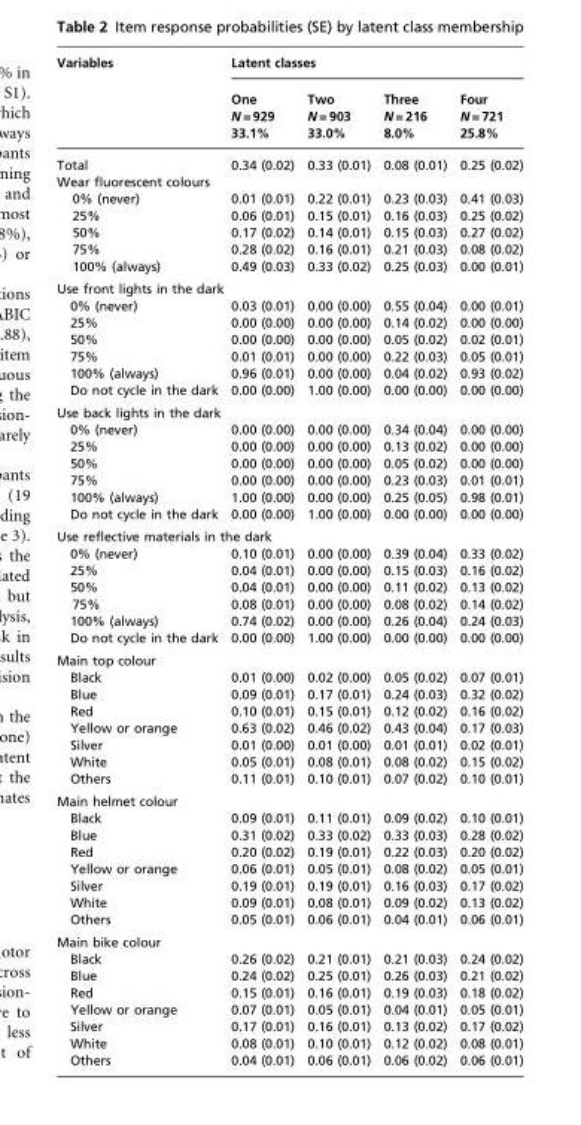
<table><thead><tr><td rowspan="4">Variables</td><td colspan="4">Latent classes</td></tr><tr><td rowspan="3">One N = 929 33.1%</td><td rowspan="3">Two N = 903 33.0%</td><td rowspan="3">Three N = 216 8.0%</td><td rowspan="3">Four N = 721 25.8%</td></tr><tr></tr><tr></tr></thead><tbody><tr><td>Total</td><td>0.34 (0.02)</td><td>0.33 (0.01)</td><td>0.08 (0.01)</td><td>0.25 (0.02)</td></tr><tr><td colspan="5">Wear fluorescent colours</td></tr><tr><td>0% (never)</td><td>0.01 (0.01)</td><td>0.22 (0.01)</td><td>0.23 (0.03)</td><td>0.41 (0.03)</td></tr><tr><td>25%</td><td>0.06 (0.01)</td><td>0.15 (0.01)</td><td>0.16 (0.03)</td><td>0.25 (0.02)</td></tr><tr><td>50%</td><td>0.17 (0.02)</td><td>0.14 (0.01)</td><td>0.15 (0.03)</td><td>0.27 (0.02)</td></tr><tr><td>75%</td><td>0.28 (0.02)</td><td>0.16 (0.01)</td><td>0.21 (0.03)</td><td>0.08 (0.02)</td></tr><tr><td>100% (always)</td><td>0.49 (0.03)</td><td>0.33 (0.02)</td><td>0.25 (0.03)</td><td>0.00 (0.01)</td></tr><tr><td colspan="5">Use front lights in the dark</td></tr><tr><td>0% (never)</td><td>0.03 (0.01)</td><td>0.00 (0.00)</td><td>0.55 (0.04)</td><td>0.00 (0.01)</td></tr><tr><td>25%</td><td>0.00 (0.00)</td><td>0.00 (0.00)</td><td>0.14 (0.02)</td><td>0.00 (0.00)</td></tr><tr><td>50%</td><td>0.00 (0.00)</td><td>0.00 (0.00)</td><td>0.05 (0.02)</td><td>0.02 (0.01)</td></tr><tr><td>75%</td><td>0.01 (0.01)</td><td>0.00 (0.00)</td><td>0.22 (0.03)</td><td>0.05 (0.01)</td></tr><tr><td>100% (always)</td><td>0.96 (0.01)</td><td>0.00 (0.00)</td><td>0.04 (0.02)</td><td>0.93 (0.02)</td></tr><tr><td>Do not cycle in the dark</td><td>0.00 (0.00)</td><td>1.00 (0.00)</td><td>0.00 (0.00)</td><td>0.00 (0.00)</td></tr><tr><td colspan="5">Use back lights in the dark</td></tr><tr><td>0% (never)</td><td>0.00 (0.00)</td><td>0.00 (0.00)</td><td>0.34 (0.04)</td><td>0.00 (0.00)</td></tr><tr><td>25%</td><td>0.00 (0.00)</td><td>0.00 (0.00)</td><td>0.13 (0.02)</td><td>0.00 (0.00)</td></tr><tr><td>50%</td><td>0.00 (0.00)</td><td>0.00 (0.00)</td><td>0.05 (0.02)</td><td>0.00 (0.00)</td></tr><tr><td>75%</td><td>0.00 (0.00)</td><td>0.00 (0.00)</td><td>0.23 (0.03)</td><td>0.01 (0.01)</td></tr><tr><td>100% (always)</td><td>1.00 (0.00)</td><td>0.00 (0.00)</td><td>0.25 (0.05)</td><td>0.98 (0.01)</td></tr><tr><td>Do not cycle in the dark</td><td>0.00 (0.00)</td><td>1.00 (0.00)</td><td>0.00 (0.00)</td><td>0.00 (0.00)</td></tr><tr><td colspan="5">Use reflective materials in the dark</td></tr><tr><td>0% (never)</td><td>0.10 (0.01)</td><td>0.00 (0.00)</td><td>0.39 (0.04)</td><td>0.33 (0.02)</td></tr><tr><td>25%</td><td>0.04 (0.01)</td><td>0.00 (0.00)</td><td>0.15 (0.03)</td><td>0.16 (0.02)</td></tr><tr><td>50%</td><td>0.04 (0.01)</td><td>0.00 (0.00)</td><td>0.11 (0.02)</td><td>0.13 (0.02)</td></tr><tr><td>75%</td><td>0.08 (0.01)</td><td>0.00 (0.00)</td><td>0.08 (0.02)</td><td>0.14 (0.02)</td></tr><tr><td>100% (always)</td><td>0.74 (0.02)</td><td>0.00 (0.00)</td><td>0.26 (0.04)</td><td>0.24 (0.03)</td></tr><tr><td>Do not cycle in the dark</td><td>0.00 (0.00)</td><td>1.00 (0.00)</td><td>0.00 (0.00)</td><td>0.00 (0.00)</td></tr><tr><td colspan="5">Main top colour</td></tr><tr><td>Black</td><td>0.01 (0.00)</td><td>0.02 (0.00)</td><td>0.05 (0.02)</td><td>0.07 (0.01)</td></tr><tr><td>Blue</td><td>0.09 (0.01)</td><td>0.17 (0.01)</td><td>0.24 (0.03)</td><td>0.32 (0.02)</td></tr><tr><td>Red</td><td>0.10 (0.01)</td><td>0.15 (0.01)</td><td>0.12 (0.02)</td><td>0.16 (0.02)</td></tr><tr><td>Yellow or orange</td><td>0.63 (0.02)</td><td>0.46 (0.02)</td><td>0.43 (0.04)</td><td>0.17 (0.03)</td></tr><tr><td>Silver</td><td>0.01 (0.00)</td><td>0.01 (0.00)</td><td>0.01 (0.01)</td><td>0.02 (0.01)</td></tr><tr><td>White</td><td>0.05 (0.01)</td><td>0.08 (0.01)</td><td>0.08 (0.02)</td><td>0.15 (0.02)</td></tr><tr><td>Others</td><td>0.11 (0.01)</td><td>0.10 (0.01)</td><td>0.07 (0.02)</td><td>0.10 (0.01)</td></tr><tr><td colspan="5">Main helmet colour</td></tr><tr><td>Black</td><td>0.09 (0.01)</td><td>0.11 (0.01)</td><td>0.09 (0.02)</td><td>0.10 (0.01)</td></tr><tr><td>Blue</td><td>0.31 (0.02)</td><td>0.33 (0.02)</td><td>0.33 (0.03)</td><td>0.28 (0.02)</td></tr><tr><td>Red</td><td>0.20 (0.02)</td><td>0.19 (0.01)</td><td>0.22 (0.03)</td><td>0.20 (0.02)</td></tr><tr><td>Yellow or orange</td><td>0.06 (0.01)</td><td>0.05 (0.01)</td><td>0.08 (0.02)</td><td>0.05 (0.01)</td></tr><tr><td>Silver</td><td>0.19 (0.01)</td><td>0.19 (0.01)</td><td>0.16 (0.03)</td><td>0.17 (0.02)</td></tr><tr><td>White</td><td>0.09 (0.01)</td><td>0.08 (0.01)</td><td>0.09 (0.02)</td><td>0.13 (0.02)</td></tr><tr><td>Others</td><td>0.05 (0.01)</td><td>0.06 (0.01)</td><td>0.04 (0.01)</td><td>0.06 (0.01)</td></tr><tr><td colspan="5">Main bike colour</td></tr><tr><td>Black</td><td>0.26 (0.02)</td><td>0.21 (0.01)</td><td>0.21 (0.03)</td><td>0.24 (0.02)</td></tr><tr><td>Blue</td><td>0.24 (0.02)</td><td>0.25 (0.01)</td><td>0.26 (0.03)</td><td>0.21 (0.02)</td></tr><tr><td>Red</td><td>0.15 (0.01)</td><td>0.16 (0.01)</td><td>0.19 (0.03)</td><td>0.18 (0.02)</td></tr><tr><td>Yellow or orange</td><td>0.07 (0.01)</td><td>0.05 (0.01)</td><td>0.04 (0.01)</td><td>0.05 (0.01)</td></tr><tr><td>Silver</td><td>0.17 (0.01)</td><td>0.16 (0.01)</td><td>0.13 (0.02)</td><td>0.17 (0.02)</td></tr><tr><td>White</td><td>0.08 (0.01)</td><td>0.10 (0.01)</td><td>0.12 (0.02)</td><td>0.08 (0.01)</td></tr><tr><td>Others</td><td>0.04 (0.01)</td><td>0.06 (0.01)</td><td>0.06 (0.02)</td><td>0.06 (0.01)</td></tr></tbody></table>